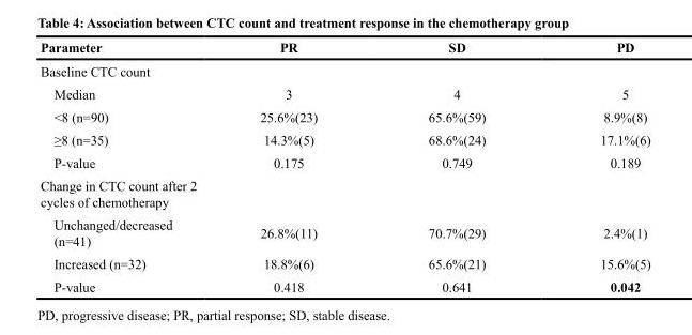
<table><thead><tr><td>Parameter</td><td>PR</td><td>SD</td><td>PD</td></tr></thead><tbody><tr><td colspan="4">Baseline CTC count</td></tr><tr><td>Median</td><td>3</td><td>4</td><td>5</td></tr><tr><td>&lt;8 (n=90)</td><td>25.6%(23)</td><td>65.6%(59)</td><td>8.9%(8)</td></tr><tr><td>≥8 (n=35)</td><td>14.3%(5)</td><td>68.6%(24)</td><td>17.1%(6)</td></tr><tr><td>P-value</td><td>0.175</td><td>0.749</td><td>0.189</td></tr><tr><td colspan="4">Change in CTC count after 2 cycles of chemotherapy</td></tr><tr><td>Unchanged/decreased (n=41)</td><td>26.8%(11)</td><td>70.7%(29)</td><td>2.4%(1)</td></tr><tr><td>Increased (n=32)</td><td>18.8%(6)</td><td>65.6%(21)</td><td>15.6%(5)</td></tr><tr><td>P-value</td><td>0.418</td><td>0.641</td><td>0.042</td></tr></tbody></table>